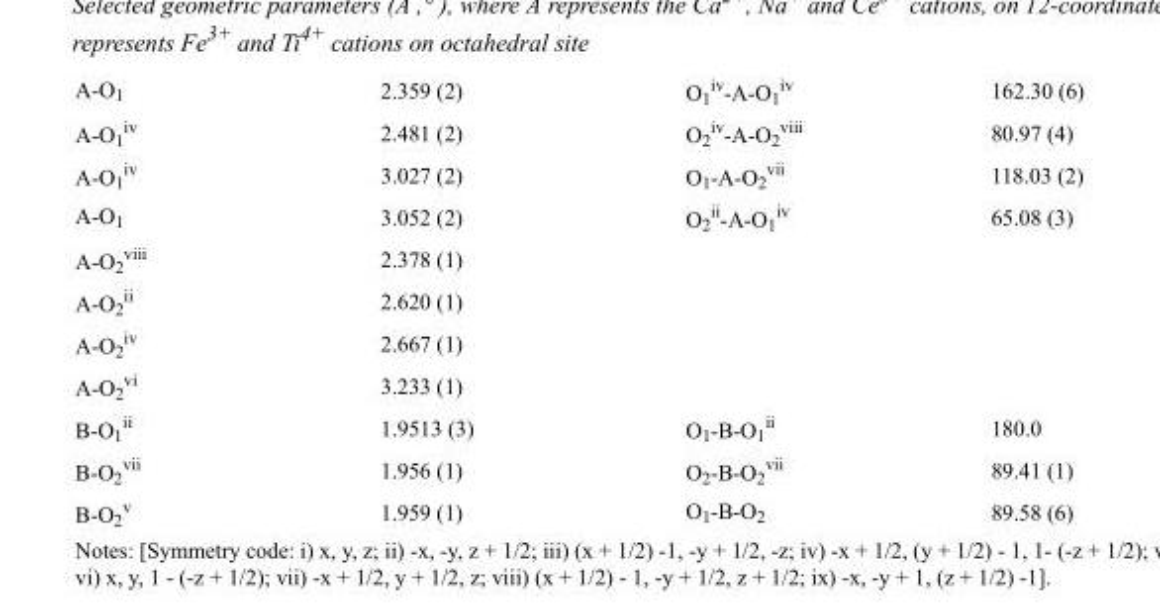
<table><tbody><tr><td>A-O<sub>1</sub></td><td>2.359 (2)</td><td>O<sub>1</sub> <sup>iv</sup>-A-O<sub>1</sub> <sup>iv</sup></td><td>162.30 (6)</td></tr><tr><td>A-O<sub>1</sub> <sup>iv</sup></td><td>2.481 (2)</td><td>O<sub>2</sub> <sup>iv</sup>-A-O<sub>2</sub> <sup>viii</sup></td><td>80.97 (4)</td></tr><tr><td>A-O<sub>1</sub> <sup>iv</sup></td><td>3.027 (2)</td><td>O<sub>1</sub>-A-O<sub>2</sub> <sup>vii</sup></td><td>118.03 (2)</td></tr><tr><td>A-O<sub>1</sub></td><td>3.052 (2)</td><td>O<sub>2</sub> <sup>ii</sup>-A-O<sub>1</sub> <sup>iv</sup></td><td>65.08 (3)</td></tr><tr><td>A-O<sub>2</sub> <sup>viii</sup></td><td>2.378 (1)</td><td></td><td></td></tr><tr><td>A-O<sub>2</sub> <sup>ii</sup></td><td>2.620 (1)</td><td></td><td></td></tr><tr><td>A-O<sub>2</sub> <sup>iv</sup></td><td>2.667 (1)</td><td></td><td></td></tr><tr><td>A-O<sub>2</sub> <sup>vi</sup></td><td>3.233 (1)</td><td></td><td></td></tr><tr><td>B-O<sub>1</sub> <sup>ii</sup></td><td>1.9513 (3)</td><td>O<sub>1</sub>-B-O<sub>1</sub> <sup>ii</sup></td><td>180.0</td></tr><tr><td>B-O<sub>2</sub> <sup>vii</sup></td><td>1.956 (1)</td><td>O<sub>2</sub>-B-O<sub>2</sub> <sup>vii</sup></td><td>89.41 (1)</td></tr><tr><td>B-O<sub>2</sub> <sup>v</sup></td><td>1.959 (1)</td><td>O<sub>1</sub>-B-O<sub>2</sub></td><td>89.58 (6)</td></tr></tbody></table>